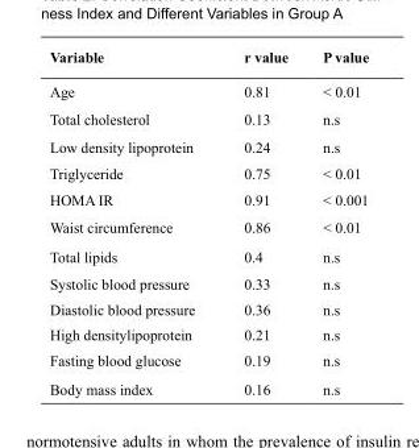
<table><thead><tr><td>Variable</td><td>r value</td><td>P value</td></tr></thead><tbody><tr><td>Age</td><td>0.81</td><td>&lt; 0.01</td></tr><tr><td>Total cholesterol</td><td>0.13</td><td>n.s</td></tr><tr><td>Low density lipoprotein</td><td>0.24</td><td>n.s</td></tr><tr><td>Triglyceride</td><td>0.75</td><td>&lt; 0.01</td></tr><tr><td>HOMA IR</td><td>0.91</td><td>&lt; 0.001</td></tr><tr><td>Waist circumference</td><td>0.86</td><td>&lt; 0.01</td></tr><tr><td>Total lipids</td><td>0.4</td><td>n.s</td></tr><tr><td>Systolic blood pressure</td><td>0.33</td><td>n.s</td></tr><tr><td>Diastolic blood pressure</td><td>0.36</td><td>n.s</td></tr><tr><td>High densitylipoprotein</td><td>0.21</td><td>n.s</td></tr><tr><td>Fasting blood glucose</td><td>0.19</td><td>n.s</td></tr><tr><td>Body mass index</td><td>0.16</td><td>n.s</td></tr></tbody></table>